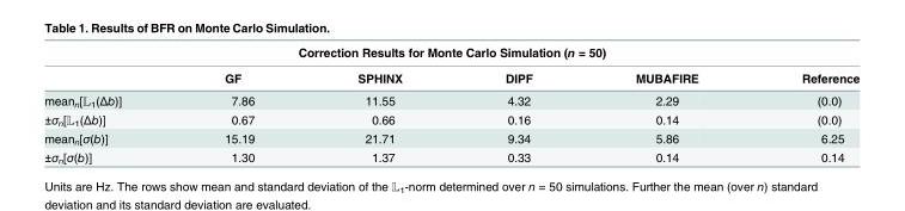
<table><thead><tr><td colspan="6">Correction Results for Monte Carlo Simulation (n = 50)</td></tr><tr><td></td><td>GF</td><td>SPHINX</td><td>DIPF</td><td>MUBAFIRE</td><td>Reference</td></tr></thead><tbody><tr><td>mean<sub>n</sub>[L<sub>1</sub>(Δb)]</td><td>7.86</td><td>11.55</td><td>4.32</td><td>2.29</td><td>(0.0)</td></tr><tr><td>±σ<sub>n</sub>[L<sub>1</sub>(Δb)]</td><td>0.67</td><td>0.66</td><td>0.16</td><td>0.14</td><td>(0.0)</td></tr><tr><td>mean<sub>n</sub>[σ(b)]</td><td>15.19</td><td>21.71</td><td>9.34</td><td>5.86</td><td>6.25</td></tr><tr><td>±σ<sub>n</sub>[σ(b)]</td><td>1.30</td><td>1.37</td><td>0.33</td><td>0.14</td><td>0.14</td></tr></tbody></table>